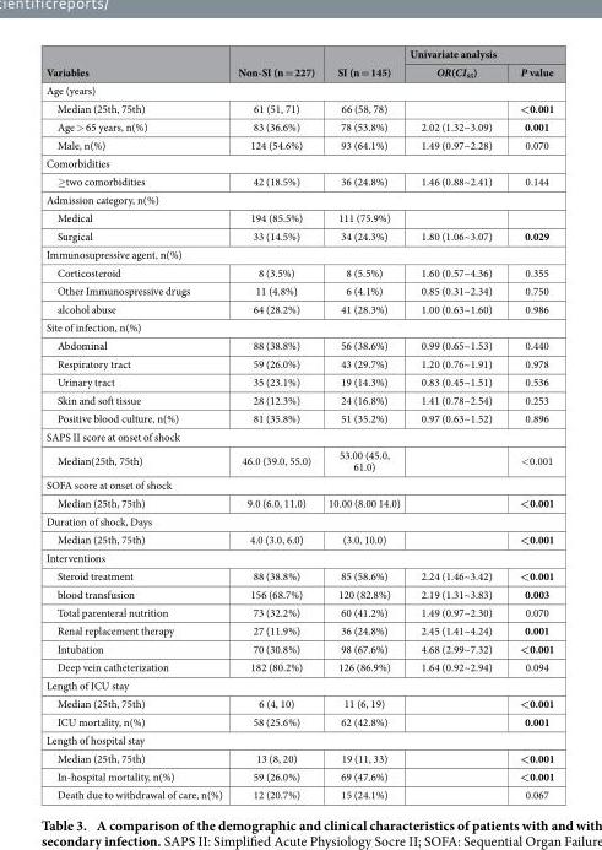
<table><thead><tr><td rowspan="2">Variables</td><td rowspan="2">Non-SI (n = 227)</td><td rowspan="2">SI (n = 145)</td><td colspan="2">Univariate analysis</td></tr><tr><td>OR(CI<sub>95</sub>)</td><td>P value</td></tr></thead><tbody><tr><td colspan="5">Age (years)</td></tr><tr><td>Median (25th, 75th)</td><td>61 (51, 71)</td><td>66 (58, 78)</td><td></td><td>&lt;0.001</td></tr><tr><td>Age &gt; 65 years, n(%)</td><td>83 (36.6%)</td><td>78 (53.8%)</td><td>2.02 (1.32~3.09)</td><td>0.001</td></tr><tr><td>Male, n(%)</td><td>124 (54.6%)</td><td>93 (64.1%)</td><td>1.49 (0.97~2.28)</td><td>0.070</td></tr><tr><td colspan="5">Comorbidities</td></tr><tr><td>≥ two comorbidities</td><td>42 (18.5%)</td><td>36 (24.8%)</td><td>1.46 (0.88~2.41)</td><td>0.144</td></tr><tr><td colspan="5">Admission category, n(%)</td></tr><tr><td>Medical</td><td>194 (85.5%)</td><td>111 (75.9%)</td><td></td><td></td></tr><tr><td>Surgical</td><td>33 (14.5%)</td><td>34 (24.3%)</td><td>1.80 (1.06~3.07)</td><td>0.029</td></tr><tr><td colspan="5">Immunosupressive agent, n(%)</td></tr><tr><td>Corticosteroid</td><td>8 (3.5%)</td><td>8 (5.5%)</td><td>1.60 (0.57~4.36)</td><td>0.355</td></tr><tr><td>Other Immunospressive drugs</td><td>11 (4.8%)</td><td>6 (4.1%)</td><td>0.85 (0.31~2.34)</td><td>0.750</td></tr><tr><td>alcohol abuse</td><td>64 (28.2%)</td><td>41 (28.3%)</td><td>1.00 (0.63~1.60)</td><td>0.986</td></tr><tr><td colspan="5">Site of infection, n(%)</td></tr><tr><td>Abdominal</td><td>88 (38.8%)</td><td>56 (38.6%)</td><td>0.99 (0.65~1.53)</td><td>0.440</td></tr><tr><td>Respiratory tract</td><td>59 (26.0%)</td><td>43 (29.7%)</td><td>1.20 (0.76~1.91)</td><td>0.978</td></tr><tr><td>Urinary tract</td><td>35 (23.1%)</td><td>19 (14.3%)</td><td>0.83 (0.45~1.51)</td><td>0.536</td></tr><tr><td>Skin and soft tissue</td><td>28 (12.3%)</td><td>24 (16.8%)</td><td>1.41 (0.78~2.54)</td><td>0.253</td></tr><tr><td>Positive blood culture, n(%)</td><td>81 (35.8%)</td><td>51 (35.2%)</td><td>0.97 (0.63~1.52)</td><td>0.896</td></tr><tr><td colspan="5">SAPS II score at onset of shock</td></tr><tr><td>Median(25th, 75th)</td><td>46.0 (39.0, 55.0)</td><td>53.00 (45.0, 61.0)</td><td></td><td>&lt; 0.001</td></tr><tr><td colspan="5">SOFA score at onset of shock</td></tr><tr><td>Median (25th, 75th)</td><td>9.0 (6.0, 11.0)</td><td>10.00 (8.00 14.0)</td><td></td><td>&lt;0.001</td></tr><tr><td colspan="5">Duration of shock, Days</td></tr><tr><td>Median (25th, 75th)</td><td>4.0 (3.0, 6.0)</td><td>(3.0, 10.0)</td><td></td><td>&lt;0.001</td></tr><tr><td colspan="5">Interventions</td></tr><tr><td>Steroid treatment</td><td>88 (38.8%)</td><td>85 (58.6%)</td><td>2.24 (1.46~3.42)</td><td>&lt;0.001</td></tr><tr><td>blood transfusion</td><td>156 (68.7%)</td><td>120 (82.8%)</td><td>2.19 (1.31~3.83)</td><td>0.003</td></tr><tr><td>Total parenteral nutrition</td><td>73 (32.2%)</td><td>60 (41.2%)</td><td>1.49 (0.97~2.30)</td><td>0.070</td></tr><tr><td>Renal replacement therapy</td><td>27 (11.9%)</td><td>36 (24.8%)</td><td>2.45 (1.41~4.24)</td><td>0.001</td></tr><tr><td>Intubation</td><td>70 (30.8%)</td><td>98 (67.6%)</td><td>4.68 (2.99~7.32)</td><td>&lt;0.001</td></tr><tr><td>Deep vein catheterization</td><td>182 (80.2%)</td><td>126 (86.9%)</td><td>1.64 (0.92~2.94)</td><td>0.094</td></tr><tr><td colspan="5">Length of ICU stay</td></tr><tr><td>Median (25th, 75th)</td><td>6 (4, 10)</td><td>11 (6, 19)</td><td></td><td>&lt;0.001</td></tr><tr><td>ICU mortality, n(%)</td><td>58 (25.6%)</td><td>62 (42.8%)</td><td></td><td>0.001</td></tr><tr><td colspan="5">Length of hospital stay</td></tr><tr><td>Median (25th, 75th)</td><td>13 (8, 20)</td><td>19 (11, 33)</td><td></td><td>&lt;0.001</td></tr><tr><td>In-hospital mortality, n(%)</td><td>59 (26.0%)</td><td>69 (47.6%)</td><td></td><td>&lt;0.001</td></tr><tr><td>Death due to withdrawal of care, n(%)</td><td>12 (20.7%)</td><td>15 (24.1%)</td><td></td><td>0.067</td></tr></tbody></table>